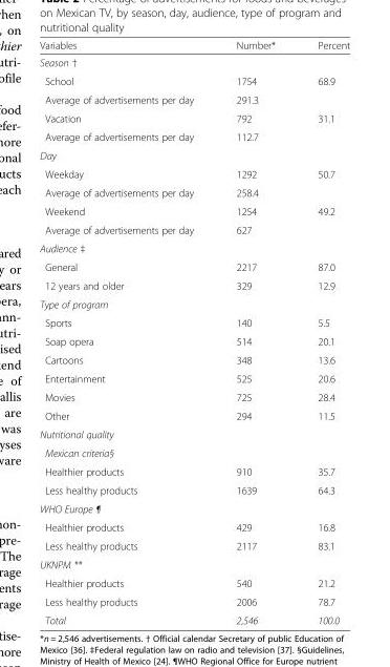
<table><thead><tr><td>Variables</td><td>Number*</td><td>Percent</td></tr></thead><tbody><tr><td colspan="3">Season †</td></tr><tr><td>School</td><td>1754</td><td>68.9</td></tr><tr><td>Average of advertisements per day</td><td>291.3</td><td></td></tr><tr><td>Vacation</td><td>792</td><td>31.1</td></tr><tr><td>Average of advertisements per day</td><td>112.7</td><td></td></tr><tr><td colspan="3">Day</td></tr><tr><td>Weekday</td><td>1292</td><td>50.7</td></tr><tr><td>Average of advertisements per day</td><td>258.4</td><td></td></tr><tr><td>Weekend</td><td>1254</td><td>49.2</td></tr><tr><td>Average of advertisements per day</td><td>627</td><td></td></tr><tr><td colspan="3">Audience ‡</td></tr><tr><td>General</td><td>2217</td><td>87.0</td></tr><tr><td>12 years and older</td><td>329</td><td>12.9</td></tr><tr><td colspan="3">Type of program</td></tr><tr><td>Sports</td><td>140</td><td>5.5</td></tr><tr><td>Soap opera</td><td>514</td><td>20.1</td></tr><tr><td>Cartoons</td><td>348</td><td>13.6</td></tr><tr><td>Entertainment</td><td>525</td><td>20.6</td></tr><tr><td>Movies</td><td>725</td><td>28.4</td></tr><tr><td>Other</td><td>294</td><td>11.5</td></tr><tr><td colspan="3">Nutritional quality</td></tr><tr><td colspan="3">Mexican criteria§</td></tr><tr><td>Healthier products</td><td>910</td><td>35.7</td></tr><tr><td>Less healthy products</td><td>1639</td><td>64.3</td></tr><tr><td colspan="3">WHO Europe ¶</td></tr><tr><td>Healthier products</td><td>429</td><td>16.8</td></tr><tr><td>Less healthy products</td><td>2117</td><td>83.1</td></tr><tr><td colspan="3">UKNPM **</td></tr><tr><td>Healthier products</td><td>540</td><td>21.2</td></tr><tr><td>Less healthy products</td><td>2006</td><td>78.7</td></tr><tr><td>Total</td><td>2,546</td><td>100.0</td></tr></tbody></table>